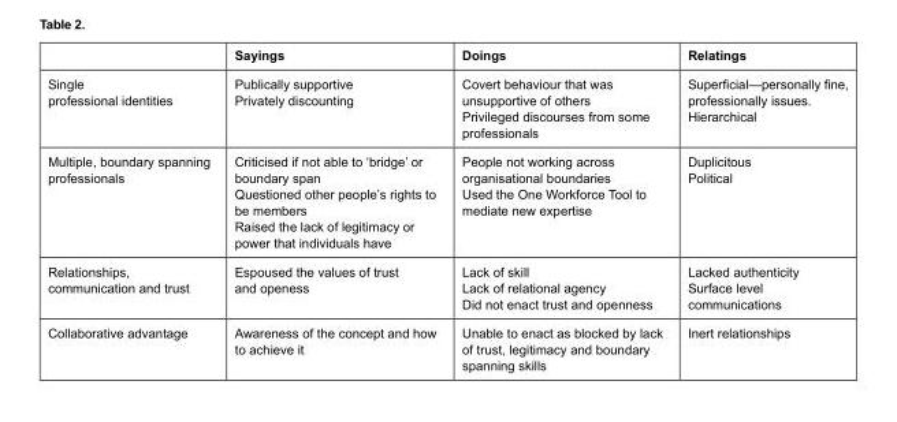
<table><thead><tr><td></td><td>Sayings</td><td>Doings</td><td>Relatings</td></tr></thead><tbody><tr><td>Single professional identities</td><td>Publically supportive Privately discounting</td><td>Covert behaviour that was unsupportive of others Privileged discourses from some professionals</td><td>Superficial—personally fine, professionally issues. Hierarchical</td></tr><tr><td>Multiple, boundary spanning professionals</td><td>Criticised if not able to ‘bridge’ or boundary span Questioned other people’s rights to be members Raised the lack of legitimacy or power that individuals have</td><td>People not working across organisational boundaries Used the One Workforce Tool to mediate new expertise</td><td>Duplicitous Political</td></tr><tr><td>Relationships, communication and trust</td><td>Espoused the values of trust and openess</td><td>Lack of skill Lack of relational agency Did not enact trust and openness</td><td>Lacked authenticity Surface level communications</td></tr><tr><td>Collaborative advantage</td><td>Awareness of the concept and how to achieve it</td><td>Unable to enact as blocked by lack of trust, legitimacy and boundary spanning skills</td><td>Inert relationships</td></tr></tbody></table>